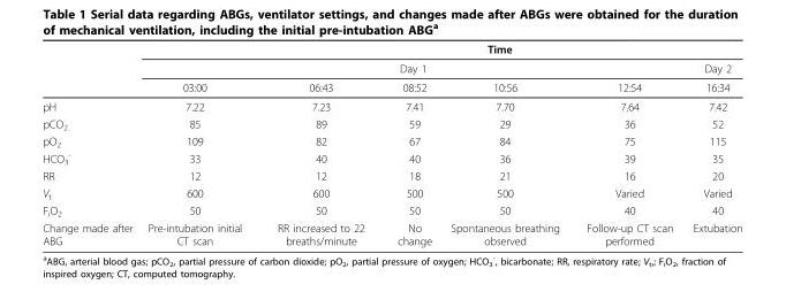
<table><thead><tr><td rowspan="3"></td><td></td><td colspan="5">Time</td></tr><tr><td colspan="5">Day 1</td><td rowspan="2">Day 2 16:34</td></tr><tr><td>03:00</td><td>06:43</td><td>08:52</td><td>10:56</td><td>12:54</td></tr></thead><tbody><tr><td>pH</td><td>7.22</td><td>7.23</td><td>7.41</td><td>7.70</td><td>7.64</td><td>7.42</td></tr><tr><td>pCO<sub>2</sub></td><td>85</td><td>89</td><td>59</td><td>29</td><td>36</td><td>52</td></tr><tr><td>pO<sub>2</sub></td><td>109</td><td>82</td><td>67</td><td>84</td><td>75</td><td>115</td></tr><tr><td>HCO<sub>3</sub> <sup>-</sup></td><td>33</td><td>40</td><td>40</td><td>36</td><td>39</td><td>35</td></tr><tr><td>RR</td><td>12</td><td>12</td><td>18</td><td>21</td><td>16</td><td>20</td></tr><tr><td>V<sub>t</sub></td><td>600</td><td>600</td><td>500</td><td>500</td><td>Varied</td><td>Varied</td></tr><tr><td>F<sub>i</sub>O<sub>2</sub></td><td>50</td><td>50</td><td>50</td><td>50</td><td>40</td><td>40</td></tr><tr><td>Change made after ABG</td><td>Pre-intubation initial CT scan</td><td>RR increased to 22 breaths/minute</td><td>No change</td><td>Spontaneous breathing observed</td><td>Follow-up CT scan performed</td><td>Extubation</td></tr></tbody></table>